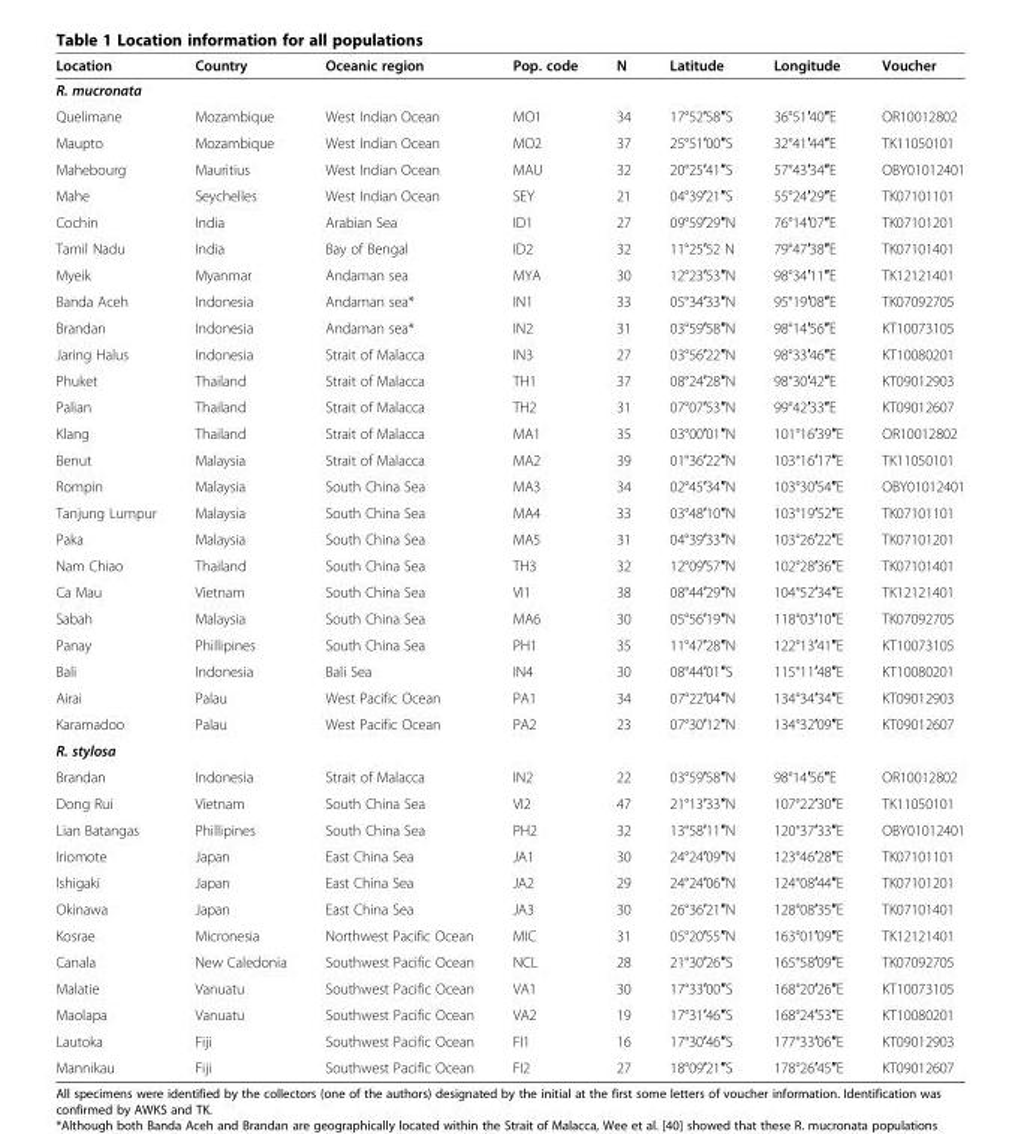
<table><thead><tr><td>Location</td><td>Country</td><td>Oceanic region</td><td>Pop. code</td><td>N</td><td>Latitude</td><td>Longitude</td><td>Voucher</td></tr></thead><tbody><tr><td colspan="8">R. mucronata</td></tr><tr><td>Quelimane</td><td>Mozambique</td><td>West Indian Ocean</td><td>MO1</td><td>34</td><td>17°52′58″S</td><td>36°51′40″E</td><td>OR10012802</td></tr><tr><td>Maupto</td><td>Mozambique</td><td>West Indian Ocean</td><td>MO2</td><td>37</td><td>25°51′00″S</td><td>32°41′44″E</td><td>TK11050101</td></tr><tr><td>Mahebourg</td><td>Mauritius</td><td>West Indian Ocean</td><td>MAU</td><td>32</td><td>20°25′41″S</td><td>57°43′34″E</td><td>OBY01012401</td></tr><tr><td>Mahe</td><td>Seychelles</td><td>West Indian Ocean</td><td>SEY</td><td>21</td><td>04°39′21″S</td><td>55°24′29″E</td><td>TK07101101</td></tr><tr><td>Cochin</td><td>India</td><td>Arabian Sea</td><td>ID1</td><td>27</td><td>09°59′29″N</td><td>76°14′07″E</td><td>TK07101201</td></tr><tr><td>Tamil Nadu</td><td>India</td><td>Bay of Bengal</td><td>ID2</td><td>32</td><td>11°25′52 N</td><td>79°47′38″E</td><td>TK07101401</td></tr><tr><td>Myeik</td><td>Myanmar</td><td>Andaman sea</td><td>MYA</td><td>30</td><td>12°23′53″N</td><td>98°34′11″E</td><td>TK12121401</td></tr><tr><td>Banda Aceh</td><td>Indonesia</td><td>Andaman sea*</td><td>IN1</td><td>33</td><td>05°34′33″N</td><td>95°19′08″E</td><td>TK07092705</td></tr><tr><td>Brandan</td><td>Indonesia</td><td>Andaman sea*</td><td>IN2</td><td>31</td><td>03°59′58″N</td><td>98°14′56″E</td><td>KT10073105</td></tr><tr><td>Jaring Halus</td><td>Indonesia</td><td>Strait of Malacca</td><td>IN3</td><td>27</td><td>03°56′22″N</td><td>98°33′46″E</td><td>KT10080201</td></tr><tr><td>Phuket</td><td>Thailand</td><td>Strait of Malacca</td><td>TH1</td><td>37</td><td>08°24′28″N</td><td>98°30′42″E</td><td>KT09012903</td></tr><tr><td>Palian</td><td>Thailand</td><td>Strait of Malacca</td><td>TH2</td><td>31</td><td>07°07′53″N</td><td>99°42′33″E</td><td>KT09012607</td></tr><tr><td>Klang</td><td>Thailand</td><td>Strait of Malacca</td><td>MA1</td><td>35</td><td>03°00′01″N</td><td>101°16′39″E</td><td>OR10012802</td></tr><tr><td>Benut</td><td>Malaysia</td><td>Strait of Malacca</td><td>MA2</td><td>39</td><td>01°36′22″N</td><td>103°16′17″E</td><td>TK11050101</td></tr><tr><td>Rompin</td><td>Malaysia</td><td>South China Sea</td><td>MA3</td><td>34</td><td>02°45′34″N</td><td>103°30′54″E</td><td>OBY01012401</td></tr><tr><td>Tanjung Lumpur</td><td>Malaysia</td><td>South China Sea</td><td>MA4</td><td>33</td><td>03°48′10″N</td><td>103°19′52″E</td><td>TK07101101</td></tr><tr><td>Paka</td><td>Malaysia</td><td>South China Sea</td><td>MA5</td><td>31</td><td>04°39′33″N</td><td>103°26′22″E</td><td>TK07101201</td></tr><tr><td>Nam Chiao</td><td>Thailand</td><td>South China Sea</td><td>TH3</td><td>32</td><td>12°09′57″N</td><td>102°28′36″E</td><td>TK07101401</td></tr><tr><td>Ca Mau</td><td>Vietnam</td><td>South China Sea</td><td>VI1</td><td>38</td><td>08°44′29″N</td><td>104°52′34″E</td><td>TK12121401</td></tr><tr><td>Sabah</td><td>Malaysia</td><td>South China Sea</td><td>MA6</td><td>30</td><td>05°56′19″N</td><td>118°03′10″E</td><td>TK07092705</td></tr><tr><td>Panay</td><td>Phillipines</td><td>South China Sea</td><td>PH1</td><td>35</td><td>11°47′28″N</td><td>122°13′41″E</td><td>KT10073105</td></tr><tr><td>Bali</td><td>Indonesia</td><td>Bali Sea</td><td>IN4</td><td>30</td><td>08°44′01″S</td><td>115°11′48″E</td><td>KT10080201</td></tr><tr><td>Airai</td><td>Palau</td><td>West Pacific Ocean</td><td>PA1</td><td>34</td><td>07°22′04″N</td><td>134°34′34″E</td><td>KT09012903</td></tr><tr><td>Karamadoo</td><td>Palau</td><td>West Pacific Ocean</td><td>PA2</td><td>23</td><td>07°30′12″N</td><td>134°32′09″E</td><td>KT09012607</td></tr><tr><td colspan="8">R. stylosa</td></tr><tr><td>Brandan</td><td>Indonesia</td><td>Strait of Malacca</td><td>IN2</td><td>22</td><td>03°59′58″N</td><td>98°14′56″E</td><td>OR10012802</td></tr><tr><td>Dong Rui</td><td>Vietnam</td><td>South China Sea</td><td>VI2</td><td>47</td><td>21°13′33″N</td><td>107°22′30″E</td><td>TK11050101</td></tr><tr><td>Lian Batangas</td><td>Phillipines</td><td>South China Sea</td><td>PH2</td><td>32</td><td>13°58′11″N</td><td>120°37′33″E</td><td>OBY01012401</td></tr><tr><td>Iriomote</td><td>Japan</td><td>East China Sea</td><td>JA1</td><td>30</td><td>24°24′09″N</td><td>123°46′28″E</td><td>TK07101101</td></tr><tr><td>Ishigaki</td><td>Japan</td><td>East China Sea</td><td>JA2</td><td>29</td><td>24°24′06″N</td><td>124°08′44″E</td><td>TK07101201</td></tr><tr><td>Okinawa</td><td>Japan</td><td>East China Sea</td><td>JA3</td><td>30</td><td>26°36′21″N</td><td>128°08′35″E</td><td>TK07101401</td></tr><tr><td>Kosrae</td><td>Micronesia</td><td>Northwest Pacific Ocean</td><td>MIC</td><td>31</td><td>05°20′55″N</td><td>163°01′09″E</td><td>TK12121401</td></tr><tr><td>Canala</td><td>New Caledonia</td><td>Southwest Pacific Ocean</td><td>NCL</td><td>28</td><td>21°30′26″S</td><td>165°58′09″E</td><td>TK07092705</td></tr><tr><td>Malatie</td><td>Vanuatu</td><td>Southwest Pacific Ocean</td><td>VA1</td><td>30</td><td>17°33′00″S</td><td>168°20′26″E</td><td>KT10073105</td></tr><tr><td>Maolapa</td><td>Vanuatu</td><td>Southwest Pacific Ocean</td><td>VA2</td><td>19</td><td>17°31′46″S</td><td>168°24′53″E</td><td>KT10080201</td></tr><tr><td>Lautoka</td><td>Fiji</td><td>Southwest Pacific Ocean</td><td>FI1</td><td>16</td><td>17°30′46″S</td><td>177°33′06″E</td><td>KT09012903</td></tr><tr><td>Mannikau</td><td>Fiji</td><td>Southwest Pacific Ocean</td><td>FI2</td><td>27</td><td>18°09′21″S</td><td>178°26′45″E</td><td>KT09012607</td></tr></tbody></table>